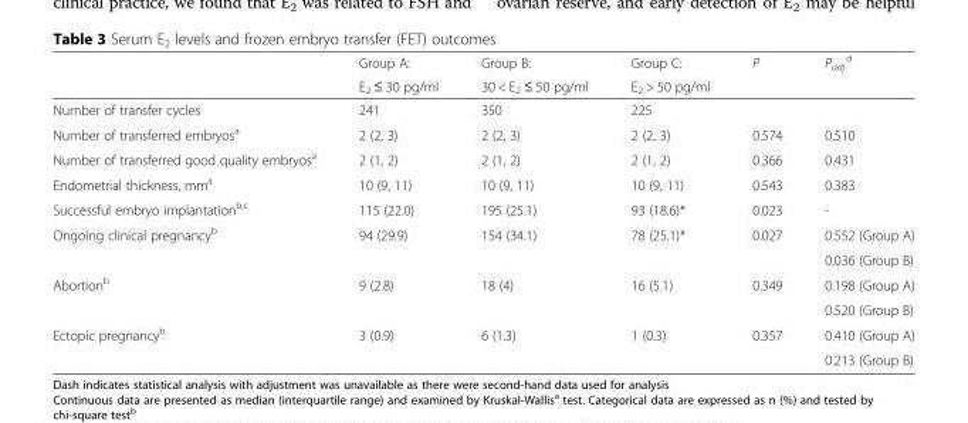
<table><thead><tr><td rowspan="2"></td><td rowspan="2">Group A: E<sub>2</sub> ≤ 30 pg/ml</td><td rowspan="2">Group B: 30 &lt; E<sub>2</sub> ≤ 50 pg/ml</td><td rowspan="2">Group C: E<sub>2</sub> &gt; 50 pg/ml</td><td rowspan="2">P</td><td rowspan="2">P<sub>adj</sub> <sup>d</sup></td></tr><tr></tr></thead><tbody><tr><td>Number of transfer cycles</td><td>241</td><td>350</td><td>225</td><td></td><td></td></tr><tr><td>Number of transferred embryos<sup>a</sup></td><td>2 (2, 3)</td><td>2 (2, 3)</td><td>2 (2, 3)</td><td>0.574</td><td>0.510</td></tr><tr><td>Number of transferred good quality embryos<sup>a</sup></td><td>2 (1, 2)</td><td>2 (1, 2)</td><td>2 (1, 2)</td><td>0.366</td><td>0.431</td></tr><tr><td>Endometrial thickness, mm<sup>a</sup></td><td>10 (9, 11)</td><td>10 (9, 11)</td><td>10 (9, 11)</td><td>0.543</td><td>0.383</td></tr><tr><td>Successful embryo implantation<sup>b,c</sup></td><td>115 (22.0)</td><td>195 (25.1)</td><td>93 (18.6)*</td><td>0.023</td><td>-</td></tr><tr><td rowspan="2">Ongoing clinical pregnancy<sup>b</sup></td><td rowspan="2">94 (29.9)</td><td rowspan="2">154 (34.1)</td><td rowspan="2">78 (25.1)*</td><td rowspan="2">0.027</td><td>0.552 (Group A)</td></tr><tr><td>0.036 (Group B)</td></tr><tr><td rowspan="2">Abortion<sup>b</sup></td><td rowspan="2">9 (2.8)</td><td rowspan="2">18 (4)</td><td rowspan="2">16 (5.1)</td><td rowspan="2">0.349</td><td>0.198 (Group A)</td></tr><tr><td>0.520 (Group B)</td></tr><tr><td rowspan="2">Ectopic pregnancy<sup>b</sup></td><td rowspan="2">3 (0.9)</td><td rowspan="2">6 (1.3)</td><td rowspan="2">1 (0.3)</td><td rowspan="2">0.357</td><td>0.410 (Group A)</td></tr><tr><td>0.213 (Group B)</td></tr></tbody></table>